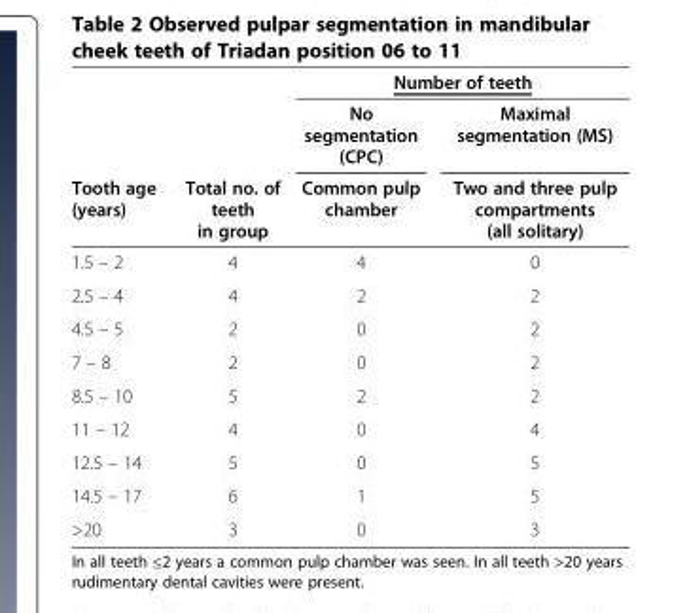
<table><thead><tr><td rowspan="3">Tooth age (years)</td><td rowspan="3">Total no. of teeth in group</td><td colspan="2">Number of teeth</td></tr><tr><td rowspan="2">No segmentation (CPC) Common pulp chamber</td><td rowspan="2">Maximal segmentation (MS) Two and three pulp compartments (all solitary)</td></tr><tr></tr></thead><tbody><tr><td>1.5 – 2</td><td>4</td><td>4</td><td>0</td></tr><tr><td>2.5 – 4</td><td>4</td><td>2</td><td>2</td></tr><tr><td>4.5 – 5</td><td>2</td><td>0</td><td>2</td></tr><tr><td>7 – 8</td><td>2</td><td>0</td><td>2</td></tr><tr><td>8.5 – 10</td><td>5</td><td>2</td><td>2</td></tr><tr><td>11 – 12</td><td>4</td><td>0</td><td>4</td></tr><tr><td>12.5 – 14</td><td>5</td><td>0</td><td>5</td></tr><tr><td>14.5 – 17</td><td>6</td><td>1</td><td>5</td></tr><tr><td>&gt;20</td><td>3</td><td>0</td><td>3</td></tr></tbody></table>